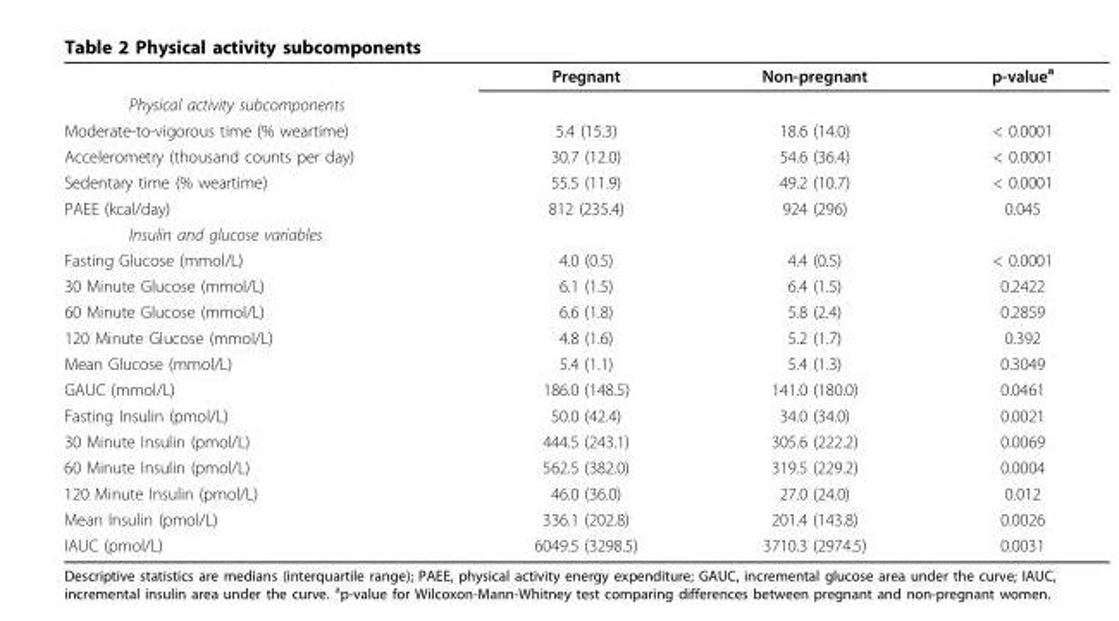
<table><thead><tr><td></td><td>Pregnant</td><td>Non-pregnant</td><td>p-value<sup>a</sup></td></tr></thead><tbody><tr><td colspan="4">Physical activity subcomponents</td></tr><tr><td>Moderate-to-vigorous time (% weartime)</td><td>5.4 (15.3)</td><td>18.6 (14.0)</td><td>&lt; 0.0001</td></tr><tr><td>Accelerometry (thousand counts per day)</td><td>30.7 (12.0)</td><td>54.6 (36.4)</td><td>&lt; 0.0001</td></tr><tr><td>Sedentary time (% weartime)</td><td>55.5 (11.9)</td><td>49.2 (10.7)</td><td>&lt; 0.0001</td></tr><tr><td>PAEE (kcal/day)</td><td>812 (235.4)</td><td>924 (296)</td><td>0.045</td></tr><tr><td colspan="4">Insulin and glucose variables</td></tr><tr><td>Fasting Glucose (mmol/L)</td><td>4.0 (0.5)</td><td>4.4 (0.5)</td><td>&lt; 0.0001</td></tr><tr><td>30 Minute Glucose (mmol/L)</td><td>6.1 (1.5)</td><td>6.4 (1.5)</td><td>0.2422</td></tr><tr><td>60 Minute Glucose (mmol/L)</td><td>6.6 (1.8)</td><td>5.8 (2.4)</td><td>0.2859</td></tr><tr><td>120 Minute Glucose (mmol/L)</td><td>4.8 (1.6)</td><td>5.2 (1.7)</td><td>0.392</td></tr><tr><td>Mean Glucose (mmol/L)</td><td>5.4 (1.1)</td><td>5.4 (1.3)</td><td>0.3049</td></tr><tr><td>GAUC (mmol/L)</td><td>186.0 (148.5)</td><td>141.0 (180.0)</td><td>0.0461</td></tr><tr><td>Fasting Insulin (pmol/L)</td><td>50.0 (42.4)</td><td>34.0 (34.0)</td><td>0.0021</td></tr><tr><td>30 Minute Insulin (pmol/L)</td><td>444.5 (243.1)</td><td>305.6 (222.2)</td><td>0.0069</td></tr><tr><td>60 Minute Insulin (pmol/L)</td><td>562.5 (382.0)</td><td>319.5 (229.2)</td><td>0.0004</td></tr><tr><td>120 Minute Insulin (pmol/L)</td><td>46.0 (36.0)</td><td>27.0 (24.0)</td><td>0.012</td></tr><tr><td>Mean Insulin (pmol/L)</td><td>336.1 (202.8)</td><td>201.4 (143.8)</td><td>0.0026</td></tr><tr><td>IAUC (pmol/L)</td><td>6049.5 (3298.5)</td><td>3710.3 (2974.5)</td><td>0.0031</td></tr></tbody></table>